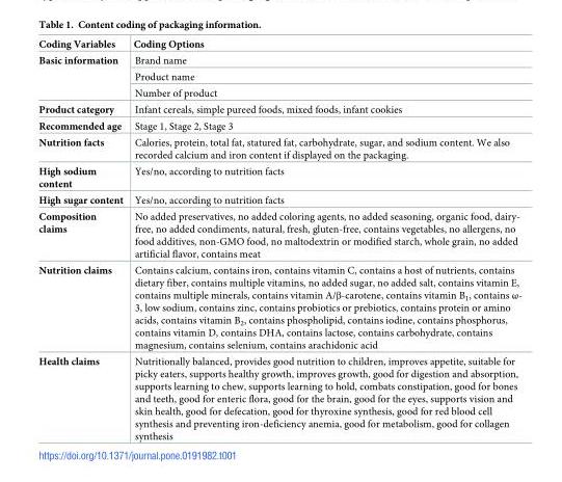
<table><thead><tr><td>Coding Variables</td><td>Coding Options</td></tr></thead><tbody><tr><td rowspan="3">Basic information</td><td>Brand name</td></tr><tr><td>Product name</td></tr><tr><td>Number of product</td></tr><tr><td>Product category</td><td>Infant cereals, simple pureed foods, mixed foods, infant cookies</td></tr><tr><td>Recommended age</td><td>Stage 1, Stage 2, Stage 3</td></tr><tr><td>Nutrition facts</td><td>Calories, protein, total fat, statured fat, carbohydrate, sugar, and sodium content. We also recorded calcium and iron content if displayed on the packaging.</td></tr><tr><td>High sodium content</td><td>Yes/no, according to nutrition facts</td></tr><tr><td>High sugar content</td><td>Yes/no, according to nutrition facts</td></tr><tr><td>Composition claims</td><td>No added preservatives, no added coloring agents, no added seasoning, organic food, dairy- free, no added condiments, natural, fresh, gluten-free, contains vegetables, no allergens, no food additives, non-GMO food, no maltodextrin or modified starch, whole grain, no added artificial flavor, contains meat</td></tr><tr><td>Nutrition claims</td><td>Contains calcium, contains iron, contains vitamin C, contains a host of nutrients, contains dietary fiber, contains multiple vitamins, no added sugar, no added salt, contains vitamin E, contains multiple minerals, contains vitamin A/β-carotene, contains vitamin B<sub>1</sub>, contains ω- 3, low sodium, contains zinc, contains probiotics or prebiotics, contains protein or amino acids, contains vitamin B<sub>2</sub>, contains phospholipid, contains iodine, contains phosphorus, contains vitamin D, contains DHA, contains lactose, contains carbohydrate, contains magnesium, contains selenium, contains arachidonic acid</td></tr><tr><td>Health claims</td><td>Nutritionally balanced, provides good nutrition to children, improves appetite, suitable for picky eaters, supports healthy growth, improves growth, good for digestion and absorption, supports learning to chew, supports learning to hold, combats constipation, good for bones and teeth, good for enteric flora, good for the brain, good for the eyes, supports vision and skin health, good for defecation, good for thyroxine synthesis, good for red blood cell synthesis and preventing iron-deficiency anemia, good for metabolism, good for collagen synthesis</td></tr></tbody></table>